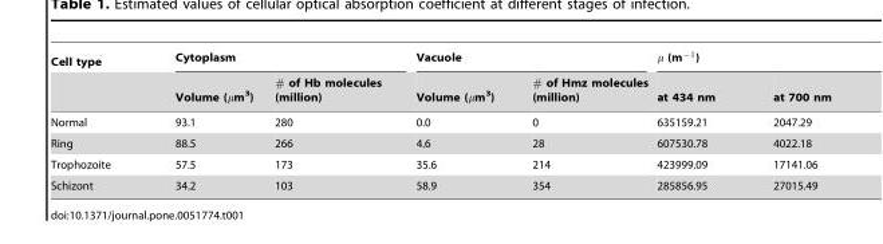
<table><thead><tr><td rowspan="2">Cell type</td><td colspan="2">Cytoplasm</td><td colspan="2">Vacuole</td><td colspan="2">m (m{1)</td></tr><tr><td>Volume (mm3)</td><td># of Hb molecules (million)</td><td>Volume (mm3)</td><td># of Hmz molecules (million)</td><td>at 434 nm</td><td>at 700 nm</td></tr></thead><tbody><tr><td>Normal</td><td>93.1</td><td>280</td><td>0.0</td><td>0</td><td>635159.21</td><td>2047.29</td></tr><tr><td>Ring</td><td>88.5</td><td>266</td><td>4.6</td><td>28</td><td>607530.78</td><td>4022.18</td></tr><tr><td>Trophozoite</td><td>57.5</td><td>173</td><td>35.6</td><td>214</td><td>423999.09</td><td>17141.06</td></tr><tr><td>Schizont</td><td>34.2</td><td>103</td><td>58.9</td><td>354</td><td>285856.95</td><td>27015.49</td></tr></tbody></table>